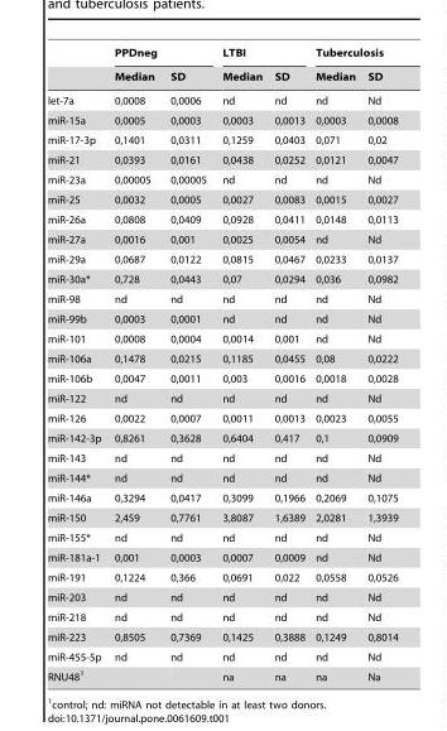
<table><thead><tr><td rowspan="2"></td><td colspan="2">PPDneg</td><td colspan="2">LTBI</td><td colspan="2">Tuberculosis</td></tr><tr><td>Median</td><td>SD</td><td>Median</td><td>SD</td><td>Median</td><td>SD</td></tr></thead><tbody><tr><td>let-7a</td><td>0,0008</td><td>0,0006</td><td>nd</td><td>nd</td><td>nd</td><td>Nd</td></tr><tr><td>miR-15a</td><td>0,0005</td><td>0,0003</td><td>0,0003</td><td>0,0013</td><td>0,0003</td><td>0,0008</td></tr><tr><td>miR-17-3p</td><td>0,1401</td><td>0,0311</td><td>0,1259</td><td>0,0403</td><td>0,071</td><td>0,02</td></tr><tr><td>miR-21</td><td>0,0393</td><td>0,0161</td><td>0,0438</td><td>0,0252</td><td>0,0121</td><td>0,0047</td></tr><tr><td>miR-23a</td><td>0,00005</td><td>0,00005</td><td>nd</td><td>nd</td><td>nd</td><td>Nd</td></tr><tr><td>miR-25</td><td>0,0032</td><td>0,0005</td><td>0,0027</td><td>0,0083</td><td>0,0015</td><td>0,0027</td></tr><tr><td>miR-26a</td><td>0,0808</td><td>0,0409</td><td>0,0928</td><td>0,0411</td><td>0,0148</td><td>0,0113</td></tr><tr><td>miR-27a</td><td>0,0016</td><td>0,001</td><td>0,0025</td><td>0,0054</td><td>nd</td><td>Nd</td></tr><tr><td>miR-29a</td><td>0,0687</td><td>0,0122</td><td>0,0815</td><td>0,0467</td><td>0,0233</td><td>0,0137</td></tr><tr><td>miR-30a*</td><td>0,728</td><td>0,0443</td><td>0,07</td><td>0,0294</td><td>0,036</td><td>0,0982</td></tr><tr><td>miR-98</td><td>nd</td><td>nd</td><td>nd</td><td>nd</td><td>nd</td><td>Nd</td></tr><tr><td>miR-99b</td><td>0,0003</td><td>0,0001</td><td>nd</td><td>nd</td><td>nd</td><td>Nd</td></tr><tr><td>miR-101</td><td>0,0008</td><td>0,0004</td><td>0,0014</td><td>0,001</td><td>nd</td><td>Nd</td></tr><tr><td>miR-106a</td><td>0,1478</td><td>0,0215</td><td>0,1185</td><td>0,0455</td><td>0,08</td><td>0,0222</td></tr><tr><td>miR-106b</td><td>0,0047</td><td>0,0011</td><td>0,003</td><td>0,0016</td><td>0,0018</td><td>0,0028</td></tr><tr><td>miR-122</td><td>nd</td><td>nd</td><td>nd</td><td>nd</td><td>nd</td><td>Nd</td></tr><tr><td>miR-126</td><td>0,0022</td><td>0,0007</td><td>0,0011</td><td>0,0013</td><td>0,0023</td><td>0,0055</td></tr><tr><td>miR-142-3p</td><td>0,8261</td><td>0,3628</td><td>0,6404</td><td>0,417</td><td>0,1</td><td>0,0909</td></tr><tr><td>miR-143</td><td>nd</td><td>nd</td><td>nd</td><td>nd</td><td>nd</td><td>Nd</td></tr><tr><td>miR-144*</td><td>nd</td><td>nd</td><td>nd</td><td>nd</td><td>nd</td><td>Nd</td></tr><tr><td>miR-146a</td><td>0,3294</td><td>0,0417</td><td>0,3099</td><td>0,1966</td><td>0,2069</td><td>0,1075</td></tr><tr><td>miR-150</td><td>2,459</td><td>0,7761</td><td>3,8087</td><td>1,6389</td><td>2,0281</td><td>1,3939</td></tr><tr><td>miR-155*</td><td>nd</td><td>nd</td><td>nd</td><td>nd</td><td>nd</td><td>Nd</td></tr><tr><td>miR-181a-1</td><td>0,001</td><td>0,0003</td><td>0,0007</td><td>0,0009</td><td>nd</td><td>Nd</td></tr><tr><td>miR-191</td><td>0,1224</td><td>0,366</td><td>0,0691</td><td>0,022</td><td>0,0558</td><td>0,0526</td></tr><tr><td>miR-203</td><td>nd</td><td>nd</td><td>nd</td><td>nd</td><td>nd</td><td>Nd</td></tr><tr><td>miR-218</td><td>nd</td><td>nd</td><td>nd</td><td>nd</td><td>nd</td><td>Nd</td></tr><tr><td>miR-223</td><td>0,8505</td><td>0,7369</td><td>0,1425</td><td>0,3888</td><td>0,1249</td><td>0,8014</td></tr><tr><td>miR-455-5p</td><td>nd</td><td>nd</td><td>nd</td><td>nd</td><td>nd</td><td>Nd</td></tr><tr><td>RNU48<sup>1</sup></td><td></td><td></td><td>na</td><td>na</td><td>na</td><td>Na</td></tr></tbody></table>